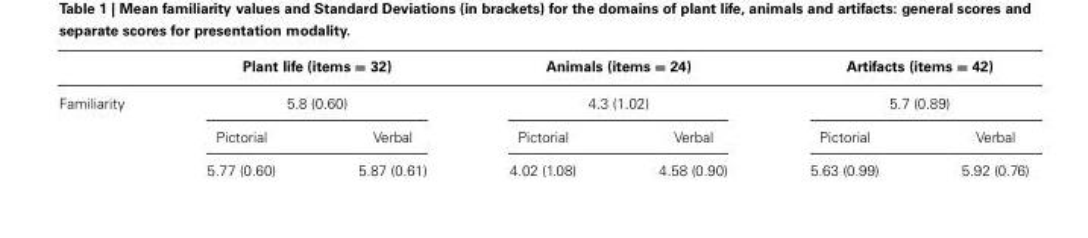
<table><thead><tr><td rowspan="3">Familiarity</td><td rowspan="2" colspan="2">Plant life (items = 32) 5.8 (0.60)</td><td rowspan="2" colspan="2">Animals (items = 24) 4.3 (1.02)</td><td rowspan="2" colspan="2">Artifacts (items = 42) 5.7 (0.89)</td></tr><tr></tr><tr><td>Pictorial</td><td>Verbal</td><td>Pictorial</td><td>Verbal</td><td>Pictorial</td><td>Verbal</td></tr></thead><tbody><tr><td></td><td>5.77 (0.60)</td><td>5.87 (0.61)</td><td>4.02 (1.08)</td><td>4.58 (0.90)</td><td>5.63 (0.99)</td><td>5.92 (0.76)</td></tr></tbody></table>